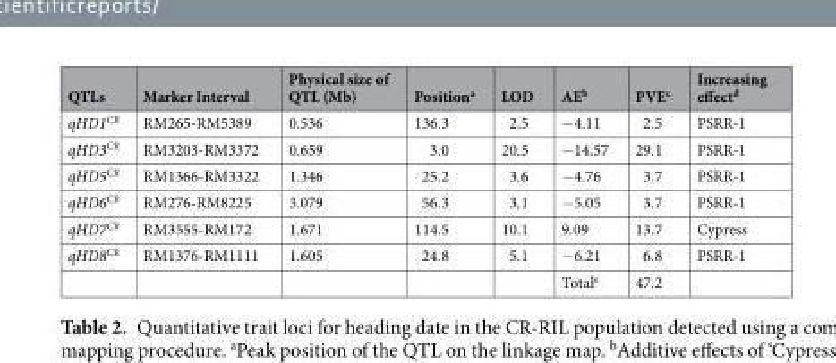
<table><thead><tr><td>QTLs</td><td>Marker Interval</td><td>Physical size of QTL (Mb)</td><td>Position<sup>a</sup></td><td>LOD</td><td>AE<sup>b</sup></td><td>PVE<sup>c</sup></td><td>Increasing effect<sup>d</sup></td></tr></thead><tbody><tr><td>qHD1<sup>CR</sup></td><td>RM265-RM5389</td><td>0.536</td><td>136.3</td><td>2.5</td><td>−4.11</td><td>2.5</td><td>PSRR-1</td></tr><tr><td>qHD3<sup>CR</sup></td><td>RM3203-RM3372</td><td>0.659</td><td>3.0</td><td>20.5</td><td>−14.57</td><td>29.1</td><td>PSRR-1</td></tr><tr><td>qHD5<sup>CR</sup></td><td>RM1366-RM3322</td><td>1.346</td><td>25.2</td><td>3.6</td><td>−4.76</td><td>3.7</td><td>PSRR-1</td></tr><tr><td>qHD6<sup>CR</sup></td><td>RM276-RM8225</td><td>3.079</td><td>56.3</td><td>3.1</td><td>−5.05</td><td>3.7</td><td>PSRR-1</td></tr><tr><td>qHD7<sup>CR</sup></td><td>RM3555-RM172</td><td>1.671</td><td>114.5</td><td>10.1</td><td>9.09</td><td>13.7</td><td>Cypress</td></tr><tr><td rowspan="2">qHD8<sup>CR</sup></td><td>RM1376-RM1111</td><td>1.605</td><td>24.8</td><td>5.1</td><td>−6.21</td><td>6.8</td><td>PSRR-1</td></tr><tr><td></td><td></td><td></td><td></td><td>Total<sup>e</sup></td><td>47.2</td><td></td></tr></tbody></table>